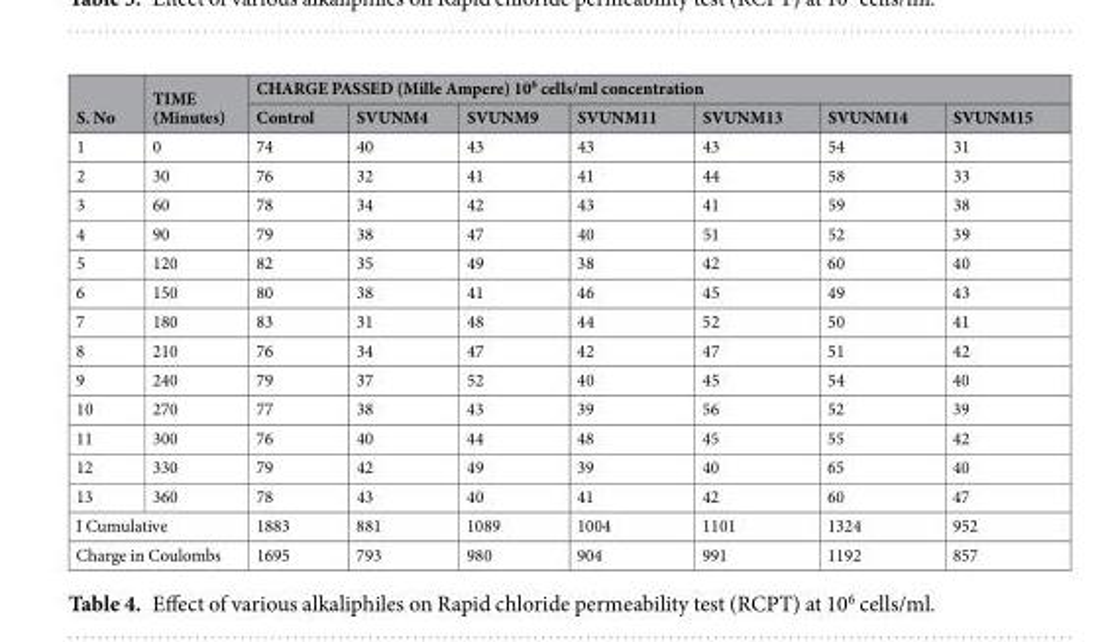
<table><thead><tr><td rowspan="2">S. No</td><td rowspan="2">TIME (Minutes)</td><td colspan="7">CHARGE PASSED (Mille Ampere) 10<sup>6</sup> cells/ml concentration</td></tr><tr><td>Control</td><td>SVUNM4</td><td>SVUNM9</td><td>SVUNM11</td><td>SVUNM13</td><td>SVUNM14</td><td>SVUNM15</td></tr></thead><tbody><tr><td>1</td><td>0</td><td>74</td><td>40</td><td>43</td><td>43</td><td>43</td><td>54</td><td>31</td></tr><tr><td>2</td><td>30</td><td>76</td><td>32</td><td>41</td><td>41</td><td>44</td><td>58</td><td>33</td></tr><tr><td>3</td><td>60</td><td>78</td><td>34</td><td>42</td><td>43</td><td>41</td><td>59</td><td>38</td></tr><tr><td>4</td><td>90</td><td>79</td><td>38</td><td>47</td><td>40</td><td>51</td><td>52</td><td>39</td></tr><tr><td>5</td><td>120</td><td>82</td><td>35</td><td>49</td><td>38</td><td>42</td><td>60</td><td>40</td></tr><tr><td>6</td><td>150</td><td>80</td><td>38</td><td>41</td><td>46</td><td>45</td><td>49</td><td>43</td></tr><tr><td>7</td><td>180</td><td>83</td><td>31</td><td>48</td><td>44</td><td>52</td><td>50</td><td>41</td></tr><tr><td>8</td><td>210</td><td>76</td><td>34</td><td>47</td><td>42</td><td>47</td><td>51</td><td>42</td></tr><tr><td>9</td><td>240</td><td>79</td><td>37</td><td>52</td><td>40</td><td>45</td><td>54</td><td>40</td></tr><tr><td>10</td><td>270</td><td>77</td><td>38</td><td>43</td><td>39</td><td>56</td><td>52</td><td>39</td></tr><tr><td>11</td><td>300</td><td>76</td><td>40</td><td>44</td><td>48</td><td>45</td><td>55</td><td>42</td></tr><tr><td>12</td><td>330</td><td>79</td><td>42</td><td>49</td><td>39</td><td>40</td><td>65</td><td>40</td></tr><tr><td>13</td><td>360</td><td>78</td><td>43</td><td>40</td><td>41</td><td>42</td><td>60</td><td>47</td></tr><tr><td colspan="2">I Cumulative</td><td>1883</td><td>881</td><td>1089</td><td>1004</td><td>1101</td><td>1324</td><td>952</td></tr><tr><td colspan="2">Charge in Coulombs</td><td>1695</td><td>793</td><td>980</td><td>904</td><td>991</td><td>1192</td><td>857</td></tr></tbody></table>